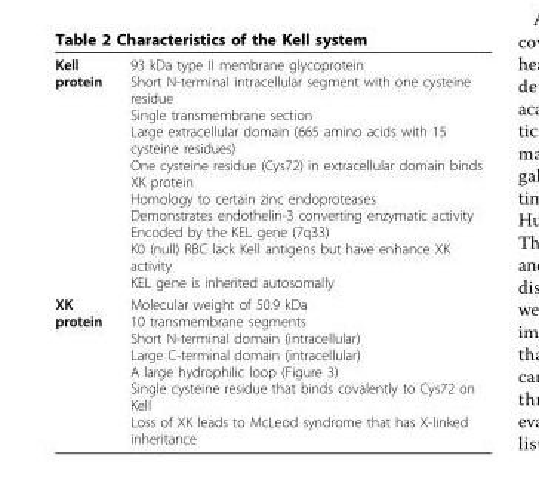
<table><tbody><tr><td>Kell protein</td><td>93 kDa type II membrane glycoprotein Short N-terminal intracellular segment with one cysteine residue Single transmembrane section Large extracellular domain (665 amino acids with 15 cysteine residues) One cysteine residue (Cys72) in extracellular domain binds XK protein Homology to certain zinc endoproteases Demonstrates endothelin-3 converting enzymatic activity Encoded by the KEL gene (7q33) K0 (null) RBC lack Kell antigens but have enhance XK activity KEL gene is inherited autosomally</td></tr><tr><td>XK protein</td><td>Molecular weight of 50.9 kDa 10 transmembrane segments Short N-terminal domain (intracellular) Large C-terminal domain (intracellular) A large hydrophilic loop (Figure 3) Single cysteine residue that binds covalently to Cys72 on Kell Loss of XK leads to McLeod syndrome that has X-linked inheritance</td></tr></tbody></table>